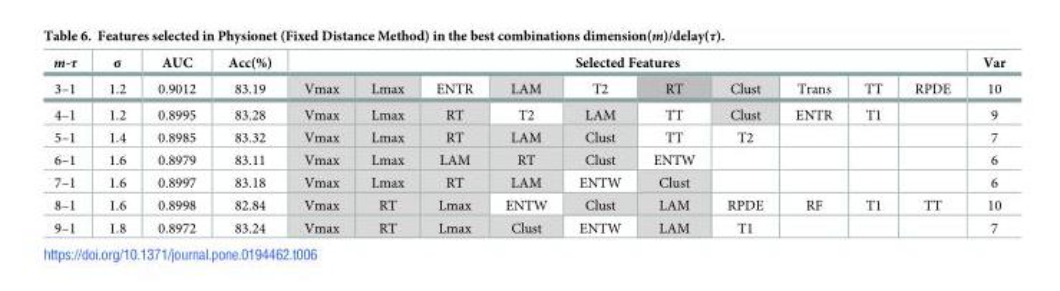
<table><thead><tr><td rowspan="2">m-τ 3–1</td><td rowspan="2">σ 1.2</td><td rowspan="2">AUC 0.9012</td><td rowspan="2">Acc(%) 83.19</td><td colspan="10">Selected Features</td><td rowspan="2">Var 10</td></tr><tr><td>Vmax</td><td>Lmax</td><td>ENTR</td><td>LAM</td><td>T2</td><td>RT</td><td>Clust</td><td>Trans</td><td>TT</td><td>RPDE</td></tr></thead><tbody><tr><td>4–1</td><td>1.2</td><td>0.8995</td><td>83.28</td><td>Vmax</td><td>Lmax</td><td>RT</td><td>T2</td><td>LAM</td><td>TT</td><td>Clust</td><td>ENTR</td><td>T1</td><td></td><td>9</td></tr><tr><td>5–1</td><td>1.4</td><td>0.8985</td><td>83.32</td><td>Vmax</td><td>Lmax</td><td>RT</td><td>LAM</td><td>Clust</td><td>TT</td><td>T2</td><td></td><td></td><td></td><td>7</td></tr><tr><td>6–1</td><td>1.6</td><td>0.8979</td><td>83.11</td><td>Vmax</td><td>Lmax</td><td>LAM</td><td>RT</td><td>Clust</td><td>ENTW</td><td></td><td></td><td></td><td></td><td>6</td></tr><tr><td>7–1</td><td>1.6</td><td>0.8997</td><td>83.18</td><td>Vmax</td><td>Lmax</td><td>RT</td><td>LAM</td><td>ENTW</td><td>Clust</td><td></td><td></td><td></td><td></td><td>6</td></tr><tr><td>8–1</td><td>1.6</td><td>0.8998</td><td>82.84</td><td>Vmax</td><td>RT</td><td>Lmax</td><td>ENTW</td><td>Clust</td><td>LAM</td><td>RPDE</td><td>RF</td><td>T1</td><td>TT</td><td>10</td></tr><tr><td>9–1</td><td>1.8</td><td>0.8972</td><td>83.24</td><td>Vmax</td><td>RT</td><td>Lmax</td><td>Clust</td><td>ENTW</td><td>LAM</td><td>T1</td><td></td><td></td><td></td><td>7</td></tr></tbody></table>